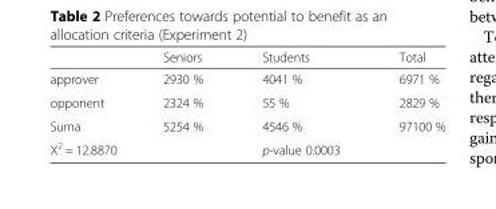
<table><thead><tr><td></td><td>Seniors</td><td>Students</td><td>Total</td></tr></thead><tbody><tr><td>approver</td><td>2930 %</td><td>4041 %</td><td>6971 %</td></tr><tr><td>opponent</td><td>2324 %</td><td>55 %</td><td>2829 %</td></tr><tr><td>Suma</td><td>5254 %</td><td>4546 %</td><td>97100 %</td></tr><tr><td colspan="2">X<sup>2</sup> = 12.8870</td><td>p-value 0.0003</td><td></td></tr></tbody></table>